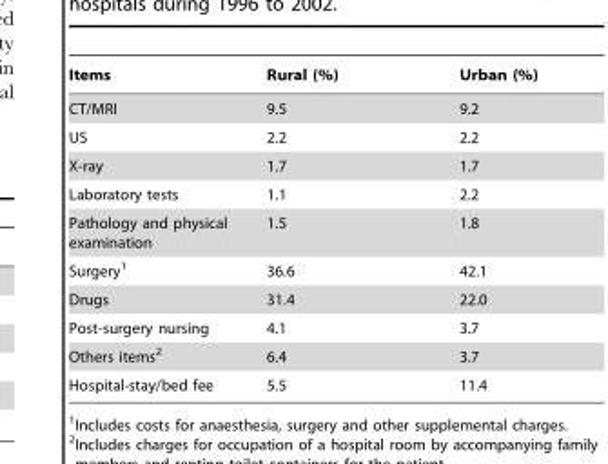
<table><thead><tr><td>Items</td><td>Rural (%)</td><td>Urban (%)</td></tr></thead><tbody><tr><td>CT/MRI</td><td>9.5</td><td>9.2</td></tr><tr><td>US</td><td>2.2</td><td>2.2</td></tr><tr><td>X-ray</td><td>1.7</td><td>1.7</td></tr><tr><td>Laboratory tests</td><td>1.1</td><td>2.2</td></tr><tr><td>Pathology and physical examination</td><td>1.5</td><td>1.8</td></tr><tr><td>Surgery<sup>1</sup></td><td>36.6</td><td>42.1</td></tr><tr><td>Drugs</td><td>31.4</td><td>22.0</td></tr><tr><td>Post-surgery nursing</td><td>4.1</td><td>3.7</td></tr><tr><td>Others items<sup>2</sup></td><td>6.4</td><td>3.7</td></tr><tr><td>Hospital-stay/bed fee</td><td>5.5</td><td>11.4</td></tr></tbody></table>